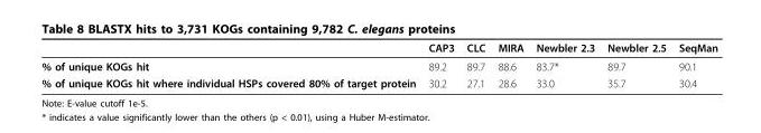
<table><thead><tr><td></td><td>CAP3</td><td>CLC</td><td>MIRA</td><td>Newbler 2.3</td><td>Newbler 2.5</td><td>SeqMan</td></tr></thead><tbody><tr><td>% of unique KOGs hit</td><td>89.2</td><td>89.7</td><td>88.6</td><td>83.7*</td><td>89.7</td><td>90.1</td></tr><tr><td>% of unique KOGs hit where individual HSPs covered 80% of target protein</td><td>30.2</td><td>27.1</td><td>28.6</td><td>33.0</td><td>35.7</td><td>30.4</td></tr></tbody></table>